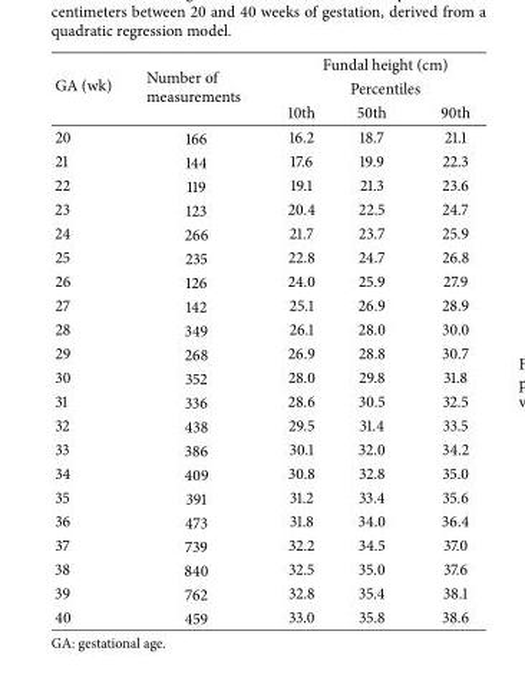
<table><thead><tr><td rowspan="3">GA (wk)</td><td rowspan="3">Number of measurements</td><td rowspan="2" colspan="3">Fundal height (cm) Percentiles</td></tr><tr></tr><tr><td>10th</td><td>50th</td><td>90th</td></tr></thead><tbody><tr><td>20</td><td>166</td><td>16.2</td><td>18.7</td><td>21.1</td></tr><tr><td>21</td><td>144</td><td>17.6</td><td>19.9</td><td>22.3</td></tr><tr><td>22</td><td>119</td><td>19.1</td><td>21.3</td><td>23.6</td></tr><tr><td>23</td><td>123</td><td>20.4</td><td>22.5</td><td>24.7</td></tr><tr><td>24</td><td>266</td><td>21.7</td><td>23.7</td><td>25.9</td></tr><tr><td>25</td><td>235</td><td>22.8</td><td>24.7</td><td>26.8</td></tr><tr><td>26</td><td>126</td><td>24.0</td><td>25.9</td><td>27.9</td></tr><tr><td>27</td><td>142</td><td>25.1</td><td>26.9</td><td>28.9</td></tr><tr><td>28</td><td>349</td><td>26.1</td><td>28.0</td><td>30.0</td></tr><tr><td>29</td><td>268</td><td>26.9</td><td>28.8</td><td>30.7</td></tr><tr><td>30</td><td>352</td><td>28.0</td><td>29.8</td><td>31.8</td></tr><tr><td>31</td><td>336</td><td>28.6</td><td>30.5</td><td>32.5</td></tr><tr><td>32</td><td>438</td><td>29.5</td><td>31.4</td><td>33.5</td></tr><tr><td>33</td><td>386</td><td>30.1</td><td>32.0</td><td>34.2</td></tr><tr><td>34</td><td>409</td><td>30.8</td><td>32.8</td><td>35.0</td></tr><tr><td>35</td><td>391</td><td>31.2</td><td>33.4</td><td>35.6</td></tr><tr><td>36</td><td>473</td><td>31.8</td><td>34.0</td><td>36.4</td></tr><tr><td>37</td><td>739</td><td>32.2</td><td>34.5</td><td>37.0</td></tr><tr><td>38</td><td>840</td><td>32.5</td><td>35.0</td><td>37.6</td></tr><tr><td>39</td><td>762</td><td>32.8</td><td>35.4</td><td>38.1</td></tr><tr><td>40</td><td>459</td><td>33.0</td><td>35.8</td><td>38.6</td></tr></tbody></table>